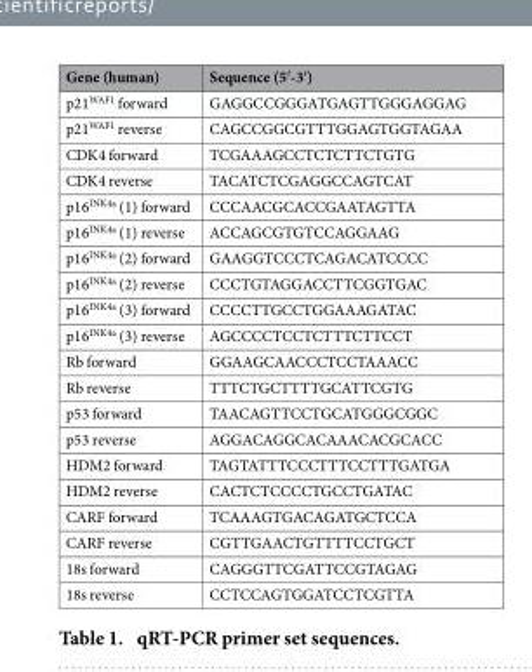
<table><thead><tr><td>Gene (human)</td><td>Sequence (5′ -3′ )</td></tr></thead><tbody><tr><td>p21<sup>WAF1</sup> forward</td><td>GAGGCCGGGATGAGTTGGGAGGAG</td></tr><tr><td>p21<sup>WAF1</sup> reverse</td><td>CAGCCGGCGTTTGGAGTGGTAGAA</td></tr><tr><td>CDK4 forward</td><td>TCGAAAGCCTCTCTTCTGTG</td></tr><tr><td>CDK4 reverse</td><td>TACATCTCGAGGCCAGTCAT</td></tr><tr><td>p16<sup>INK4a</sup> (1) forward</td><td>CCCAACGCACCGAATAGTTA</td></tr><tr><td>p16<sup>INK4a</sup> (1) reverse</td><td>ACCAGCGTGTCCAGGAAG</td></tr><tr><td>p16<sup>INK4a</sup> (2) forward</td><td>GAAGGTCCCTCAGACATCCCC</td></tr><tr><td>p16<sup>INK4a</sup> (2) reverse</td><td>CCCTGTAGGACCTTCGGTGAC</td></tr><tr><td>p16<sup>INK4a</sup> (3) forward</td><td>CCCCTTGCCTGGAAAGATAC</td></tr><tr><td>p16<sup>INK4a</sup> (3) reverse</td><td>AGCCCCTCCTCTTTCTTCCT</td></tr><tr><td>Rb forward</td><td>GGAAGCAACCCTCCTAAACC</td></tr><tr><td>Rb reverse</td><td>TTTCTGCTTTTGCATTCGTG</td></tr><tr><td>p53 forward</td><td>TAACAGTTCCTGCATGGGCGGC</td></tr><tr><td>p53 reverse</td><td>AGGACAGGCACAAACACGCACC</td></tr><tr><td>HDM2 forward</td><td>TAGTATTTCCCTTTCCTTTGATGA</td></tr><tr><td>HDM2 reverse</td><td>CACTCTCCCCTGCCTGATAC</td></tr><tr><td>CARF forward</td><td>TCAAAGTGACAGATGCTCCA</td></tr><tr><td>CARF reverse</td><td>CGTTGAACTGTTTTCCTGCT</td></tr><tr><td>18s forward</td><td>CAGGGTTCGATTCCGTAGAG</td></tr><tr><td>18s reverse</td><td>CCTCCAGTGGATCCTCGTTA</td></tr></tbody></table>